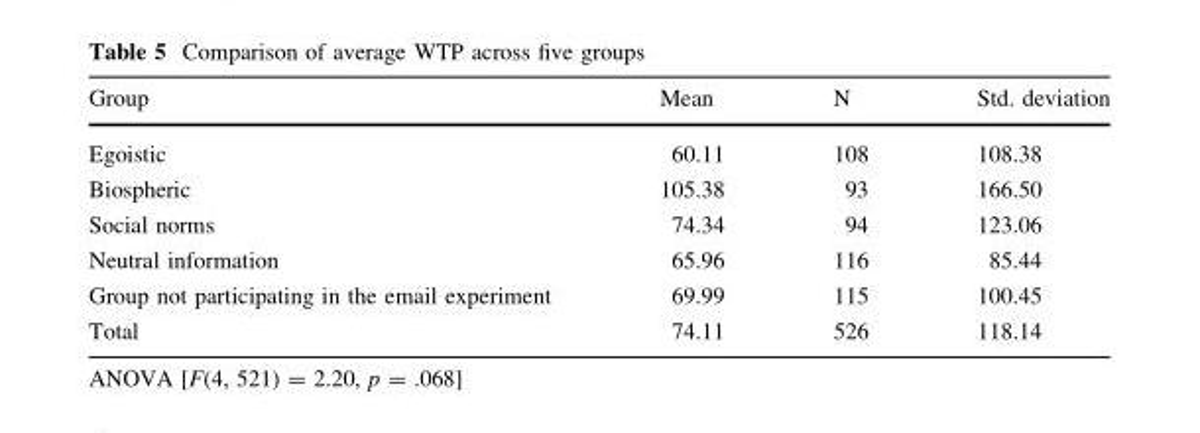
<table><thead><tr><td>Group</td><td>Mean</td><td>N</td><td>Std. deviation</td></tr></thead><tbody><tr><td>Egoistic</td><td>60.11</td><td>108</td><td>108.38</td></tr><tr><td>Biospheric</td><td>105.38</td><td>93</td><td>166.50</td></tr><tr><td>Social norms</td><td>74.34</td><td>94</td><td>123.06</td></tr><tr><td>Neutral information</td><td>65.96</td><td>116</td><td>85.44</td></tr><tr><td>Group not participating in the email experiment</td><td>69.99</td><td>115</td><td>100.45</td></tr><tr><td>Total</td><td>74.11</td><td>526</td><td>118.14</td></tr></tbody></table>